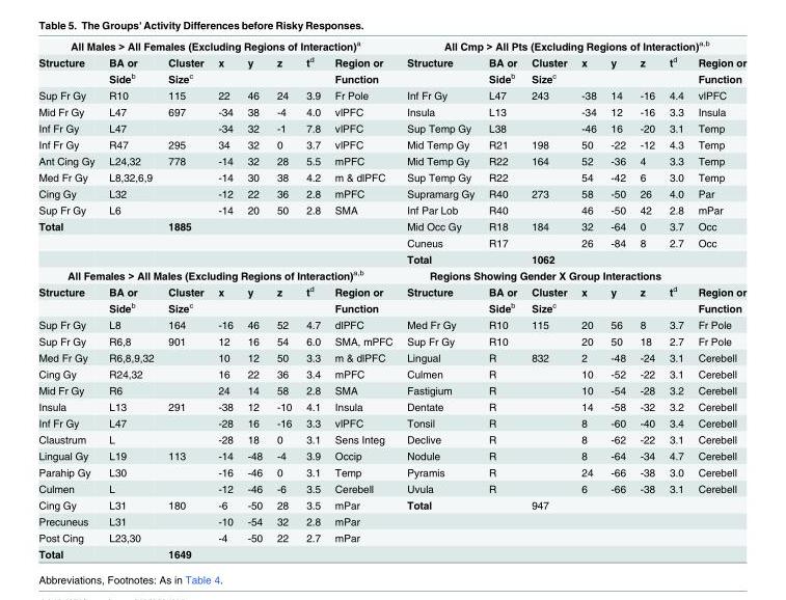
<table><tbody><tr><td colspan="8">All Males &gt; All Females (Excluding Regions of Interaction)<sup>a</sup></td><td colspan="8">All Cmp &gt; All Pts (Excluding Regions of Interaction)<sup>a,b</sup></td></tr><tr><td rowspan="2">Structure</td><td>BA or</td><td>Cluster</td><td>x</td><td>y</td><td>z</td><td>t<sup>d</sup></td><td>Region or</td><td>Structure</td><td>BA or</td><td>Cluster</td><td>x</td><td>y</td><td>z</td><td>t<sup>d</sup></td><td>Region or</td></tr><tr><td>Side<sup>b</sup></td><td>Size<sup>c</sup></td><td></td><td></td><td></td><td></td><td>Function</td><td></td><td>Side<sup>b</sup></td><td>Size<sup>c</sup></td><td></td><td></td><td></td><td></td><td>Function</td></tr><tr><td>Sup Fr Gy</td><td>R10</td><td>115</td><td>22</td><td>46</td><td>24</td><td>3.9</td><td>Fr Pole</td><td>Inf Fr Gy</td><td>L47</td><td>243</td><td>-38</td><td>14</td><td>-16</td><td>4.4</td><td>vlPFC</td></tr><tr><td>Mid Fr Gy</td><td>L47</td><td>697</td><td>-34</td><td>38</td><td>-4</td><td>4.0</td><td>vlPFC</td><td>Insula</td><td>L13</td><td></td><td>-34</td><td>12</td><td>-16</td><td>3.3</td><td>Insula</td></tr><tr><td>Inf Fr Gy</td><td>L47</td><td></td><td>-34</td><td>32</td><td>-1</td><td>7.8</td><td>vlPFC</td><td>Sup Temp Gy</td><td>L38</td><td></td><td>-46</td><td>16</td><td>-20</td><td>3.1</td><td>Temp</td></tr><tr><td>Inf Fr Gy</td><td>R47</td><td>295</td><td>34</td><td>32</td><td>0</td><td>3.7</td><td>vlPFC</td><td>Mid Temp Gy</td><td>R21</td><td>198</td><td>50</td><td>-22</td><td>-12</td><td>4.3</td><td>Temp</td></tr><tr><td>Ant Cing Gy</td><td>L24,32</td><td>778</td><td>-14</td><td>32</td><td>28</td><td>5.5</td><td>mPFC</td><td>Mid Temp Gy</td><td>R22</td><td>164</td><td>52</td><td>-36</td><td>4</td><td>3.3</td><td>Temp</td></tr><tr><td>Med Fr Gy</td><td>L8,32,6,9</td><td></td><td>-14</td><td>30</td><td>38</td><td>4.2</td><td>m &amp; dlPFC</td><td>Sup Temp Gy</td><td>R22</td><td></td><td>54</td><td>-42</td><td>6</td><td>3.0</td><td>Temp</td></tr><tr><td>Cing Gy</td><td>L32</td><td></td><td>-12</td><td>22</td><td>36</td><td>2.8</td><td>mPFC</td><td>Supramarg Gy</td><td>R40</td><td>273</td><td>58</td><td>-50</td><td>26</td><td>4.0</td><td>Par</td></tr><tr><td>Sup Fr Gy</td><td>L6</td><td></td><td>-14</td><td>20</td><td>50</td><td>2.8</td><td>SMA</td><td>Inf Par Lob</td><td>R40</td><td></td><td>46</td><td>-50</td><td>42</td><td>2.8</td><td>mPar</td></tr><tr><td rowspan="3">Total</td><td></td><td>1885</td><td></td><td></td><td></td><td></td><td></td><td>Mid Occ Gy</td><td>R18</td><td>184</td><td>32</td><td>-64</td><td>0</td><td>3.7</td><td>Occ</td></tr><tr><td></td><td></td><td></td><td></td><td></td><td></td><td></td><td>Cuneus</td><td>R17</td><td></td><td>26</td><td>-84</td><td>8</td><td>2.7</td><td>Occ</td></tr><tr><td></td><td></td><td></td><td></td><td></td><td></td><td></td><td>Total</td><td></td><td>1062</td><td></td><td></td><td></td><td></td><td></td></tr><tr><td colspan="8">All Females &gt; All Males (Excluding Regions of Interaction)<sup>a,b</sup></td><td colspan="7">Regions Showing Gender X Group Interactions</td><td></td></tr><tr><td rowspan="2">Structure</td><td>BA or</td><td>Cluster</td><td>x</td><td>y</td><td>z</td><td>t<sup>d</sup></td><td>Region or</td><td>Structure</td><td>BA or</td><td>Cluster</td><td>x</td><td>y</td><td>z</td><td>t<sup>d</sup></td><td>Region or</td></tr><tr><td>Side<sup>b</sup></td><td>Size<sup>c</sup></td><td></td><td></td><td></td><td></td><td>Function</td><td></td><td>Side<sup>b</sup></td><td>Size<sup>c</sup></td><td></td><td></td><td></td><td></td><td>Function</td></tr><tr><td>Sup Fr Gy</td><td>L8</td><td>164</td><td>-16</td><td>46</td><td>52</td><td>4.7</td><td>dlPFC</td><td>Med Fr Gy</td><td>R10</td><td>115</td><td>20</td><td>56</td><td>8</td><td>3.7</td><td>Fr Pole</td></tr><tr><td>Sup Fr Gy</td><td>R6,8</td><td>901</td><td>12</td><td>16</td><td>54</td><td>6.0</td><td>SMA, mPFC</td><td>Sup Fr Gy</td><td>R10</td><td></td><td>20</td><td>50</td><td>18</td><td>2.7</td><td>Fr Pole</td></tr><tr><td>Med Fr Gy</td><td>R6,8,9,32</td><td></td><td>10</td><td>12</td><td>50</td><td>3.3</td><td>m &amp; dlPFC</td><td>Lingual</td><td>R</td><td>832</td><td>2</td><td>-48</td><td>-24</td><td>3.1</td><td>Cerebell</td></tr><tr><td>Cing Gy</td><td>R24,32</td><td></td><td>16</td><td>22</td><td>36</td><td>3.4</td><td>mPFC</td><td>Culmen</td><td>R</td><td></td><td>10</td><td>-52</td><td>-22</td><td>3.1</td><td>Cerebell</td></tr><tr><td>Mid Fr Gy</td><td>R6</td><td></td><td>24</td><td>14</td><td>58</td><td>2.8</td><td>SMA</td><td>Fastigium</td><td>R</td><td></td><td>10</td><td>-54</td><td>-28</td><td>3.2</td><td>Cerebell</td></tr><tr><td>Insula</td><td>L13</td><td>291</td><td>-38</td><td>12</td><td>-10</td><td>4.1</td><td>Insula</td><td>Dentate</td><td>R</td><td></td><td>14</td><td>-58</td><td>-32</td><td>3.2</td><td>Cerebell</td></tr><tr><td>Inf Fr Gy</td><td>L47</td><td></td><td>-28</td><td>16</td><td>-16</td><td>3.3</td><td>vlPFC</td><td>Tonsil</td><td>R</td><td></td><td>8</td><td>-60</td><td>-40</td><td>3.4</td><td>Cerebell</td></tr><tr><td>Claustrum</td><td>L</td><td></td><td>-28</td><td>18</td><td>0</td><td>3.1</td><td>Sens Integ</td><td>Declive</td><td>R</td><td></td><td>8</td><td>-62</td><td>-22</td><td>3.1</td><td>Cerebell</td></tr><tr><td>Lingual Gy</td><td>L19</td><td>113</td><td>-14</td><td>-48</td><td>-4</td><td>3.9</td><td>Occip</td><td>Nodule</td><td>R</td><td></td><td>8</td><td>-64</td><td>-34</td><td>4.7</td><td>Cerebell</td></tr><tr><td>Parahip Gy</td><td>L30</td><td></td><td>-16</td><td>-46</td><td>0</td><td>3.1</td><td>Temp</td><td>Pyramis</td><td>R</td><td></td><td>24</td><td>-66</td><td>-38</td><td>3.0</td><td>Cerebell</td></tr><tr><td>Culmen</td><td>L</td><td></td><td>-12</td><td>-46</td><td>-6</td><td>3.5</td><td>Cerebell</td><td>Uvula</td><td>R</td><td></td><td>6</td><td>-66</td><td>-38</td><td>3.1</td><td>Cerebell</td></tr><tr><td>Cing Gy</td><td>L31</td><td>180</td><td>-6</td><td>-50</td><td>28</td><td>3.5</td><td>mPar</td><td>Total</td><td></td><td>947</td><td></td><td></td><td></td><td></td><td></td></tr><tr><td>Precuneus</td><td>L31</td><td></td><td>-10</td><td>-54</td><td>32</td><td>2.8</td><td>mPar</td><td></td><td></td><td></td><td></td><td></td><td></td><td></td><td></td></tr><tr><td>Post Cing</td><td>L23,30</td><td></td><td>-4</td><td>-50</td><td>22</td><td>2.7</td><td>mPar</td><td></td><td></td><td></td><td></td><td></td><td></td><td></td><td></td></tr><tr><td>Total</td><td></td><td>1649</td><td></td><td></td><td></td><td></td><td></td><td></td><td></td><td></td><td></td><td></td><td></td><td></td><td></td></tr></tbody></table>